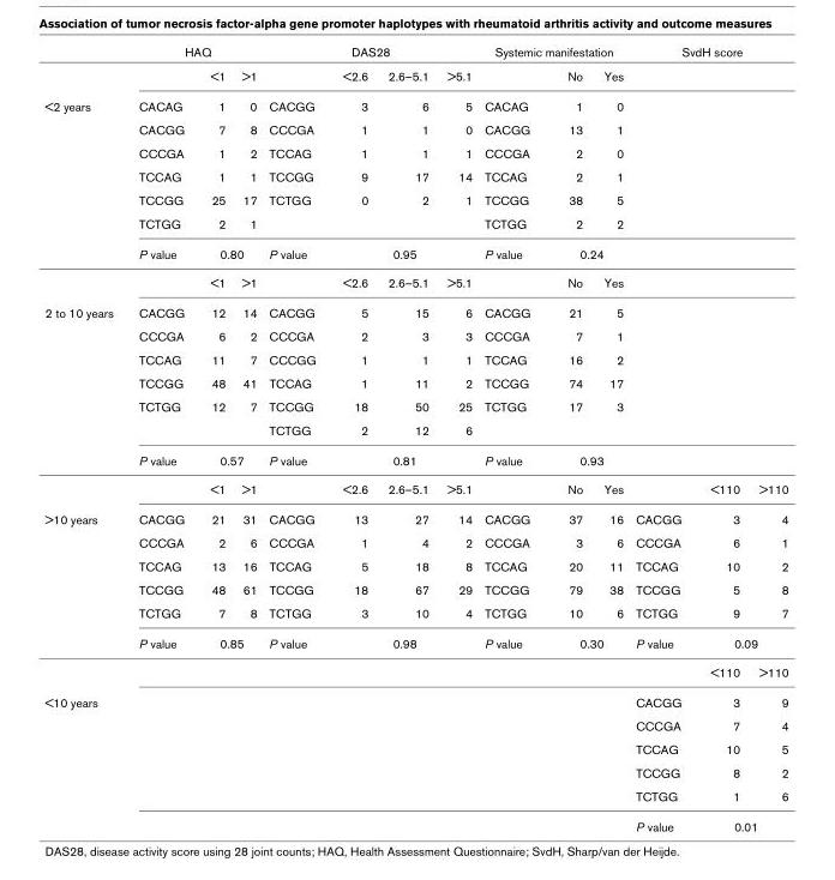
<table><thead><tr><td rowspan="2"></td><td colspan="3">HAQ</td><td colspan="4">DAS28</td><td colspan="3">Systemic manifestation</td><td colspan="3">SvdH score</td></tr><tr><td></td><td>&lt;1</td><td>&gt;1</td><td></td><td>&lt;2.6</td><td>2.6–5.1</td><td>&gt;5.1</td><td></td><td>No</td><td>Yes</td><td></td><td></td><td></td></tr></thead><tbody><tr><td rowspan="8">&lt;2 years</td><td>CACAG</td><td>1</td><td>0</td><td>CACGG</td><td>3</td><td>6</td><td>5</td><td>CACAG</td><td>1</td><td>0</td><td></td><td></td><td></td></tr><tr><td>CACGG</td><td>7</td><td>8</td><td>CCCGA</td><td>1</td><td>1</td><td>0</td><td>CACGG</td><td>13</td><td>1</td><td></td><td></td><td></td></tr><tr><td>CCCGA</td><td>1</td><td>2</td><td>TCCAG</td><td>1</td><td>1</td><td>1</td><td>CCCGA</td><td>2</td><td>0</td><td></td><td></td><td></td></tr><tr><td>TCCAG</td><td>1</td><td>1</td><td>TCCGG</td><td>9</td><td>17</td><td>14</td><td>TCCAG</td><td>2</td><td>1</td><td></td><td></td><td></td></tr><tr><td>TCCGG</td><td>25</td><td>17</td><td>TCTGG</td><td>0</td><td>2</td><td>1</td><td>TCCGG</td><td>38</td><td>5</td><td></td><td></td><td></td></tr><tr><td>TCTGG</td><td>2</td><td>1</td><td></td><td></td><td></td><td></td><td>TCTGG</td><td>2</td><td>2</td><td></td><td></td><td></td></tr><tr><td>P value</td><td colspan="2">0.80</td><td>P value</td><td colspan="3">0.95</td><td>P value</td><td colspan="2">0.24</td><td></td><td></td><td></td></tr><tr><td></td><td>&lt;1</td><td>&gt;1</td><td></td><td>&lt;2.6</td><td>2.6–5.1</td><td>&gt;5.1</td><td></td><td>No</td><td>Yes</td><td></td><td></td><td></td></tr><tr><td rowspan="8">2 to 10 years</td><td>CACGG</td><td>12</td><td>14</td><td>CACGG</td><td>5</td><td>15</td><td>6</td><td>CACGG</td><td>21</td><td>5</td><td></td><td></td><td></td></tr><tr><td>CCCGA</td><td>6</td><td>2</td><td>CCCGA</td><td>2</td><td>3</td><td>3</td><td>CCCGA</td><td>7</td><td>1</td><td></td><td></td><td></td></tr><tr><td>TCCAG</td><td>11</td><td>7</td><td>CCCGG</td><td>1</td><td>1</td><td>1</td><td>TCCAG</td><td>16</td><td>2</td><td></td><td></td><td></td></tr><tr><td>TCCGG</td><td>48</td><td>41</td><td>TCCAG</td><td>1</td><td>11</td><td>2</td><td>TCCGG</td><td>74</td><td>17</td><td></td><td></td><td></td></tr><tr><td>TCTGG</td><td>12</td><td>7</td><td>TCCGG</td><td>18</td><td>50</td><td>25</td><td>TCTGG</td><td>17</td><td>3</td><td></td><td></td><td></td></tr><tr><td></td><td></td><td></td><td>TCTGG</td><td>2</td><td>12</td><td>6</td><td></td><td></td><td></td><td></td><td></td><td></td></tr><tr><td>P value</td><td colspan="2">0.57</td><td>P value</td><td colspan="3">0.81</td><td>P value</td><td colspan="2">0.93</td><td></td><td></td><td></td></tr><tr><td></td><td>&lt;1</td><td>&gt;1</td><td></td><td>&lt;2.6</td><td>2.6–5.1</td><td>&gt;5.1</td><td></td><td>No</td><td>Yes</td><td></td><td>&lt;110</td><td>&gt;110</td></tr><tr><td rowspan="7">&gt;10 years</td><td>CACGG</td><td>21</td><td>31</td><td>CACGG</td><td>13</td><td>27</td><td>14</td><td>CACGG</td><td>37</td><td>16</td><td>CACGG</td><td>3</td><td>4</td></tr><tr><td>CCCGA</td><td>2</td><td>6</td><td>CCCGA</td><td>1</td><td>4</td><td>2</td><td>CCCGA</td><td>3</td><td>6</td><td>CCCGA</td><td>6</td><td>1</td></tr><tr><td>TCCAG</td><td>13</td><td>16</td><td>TCCAG</td><td>5</td><td>18</td><td>8</td><td>TCCAG</td><td>20</td><td>11</td><td>TCCAG</td><td>10</td><td>2</td></tr><tr><td>TCCGG</td><td>48</td><td>61</td><td>TCCGG</td><td>18</td><td>67</td><td>29</td><td>TCCGG</td><td>79</td><td>38</td><td>TCCGG</td><td>5</td><td>8</td></tr><tr><td>TCTGG</td><td>7</td><td>8</td><td>TCTGG</td><td>3</td><td>10</td><td>4</td><td>TCTGG</td><td>10</td><td>6</td><td>TCTGG</td><td>9</td><td>7</td></tr><tr><td>P value</td><td colspan="2">0.85</td><td>P value</td><td colspan="3">0.98</td><td>P value</td><td colspan="2">0.30</td><td>P value</td><td colspan="2">0.09</td></tr><tr><td></td><td></td><td></td><td></td><td></td><td></td><td></td><td></td><td></td><td></td><td></td><td>&lt;110</td><td>&gt;110</td></tr><tr><td rowspan="6">&lt;10 years</td><td></td><td></td><td></td><td></td><td></td><td></td><td></td><td></td><td></td><td></td><td>CACGG</td><td>3</td><td>9</td></tr><tr><td></td><td></td><td></td><td></td><td></td><td></td><td></td><td></td><td></td><td></td><td>CCCGA</td><td>7</td><td>4</td></tr><tr><td></td><td></td><td></td><td></td><td></td><td></td><td></td><td></td><td></td><td></td><td>TCCAG</td><td>10</td><td>5</td></tr><tr><td></td><td></td><td></td><td></td><td></td><td></td><td></td><td></td><td></td><td></td><td>TCCGG</td><td>8</td><td>2</td></tr><tr><td></td><td></td><td></td><td></td><td></td><td></td><td></td><td></td><td></td><td></td><td>TCTGG</td><td>1</td><td>6</td></tr><tr><td></td><td></td><td></td><td></td><td></td><td></td><td></td><td></td><td></td><td></td><td>P value</td><td colspan="2">0.01</td></tr></tbody></table>